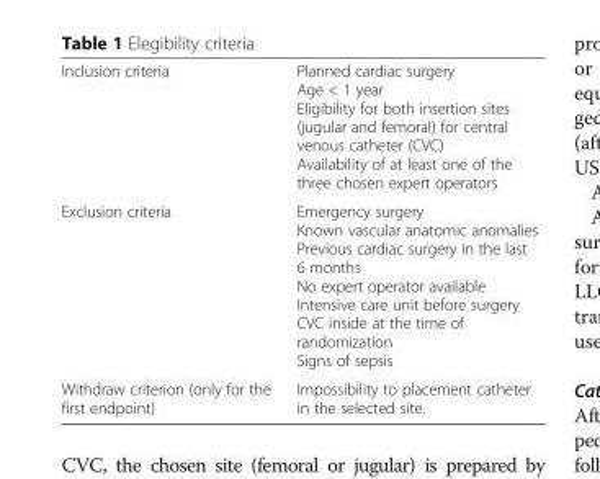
<table><tbody><tr><td>Inclusion criteria</td><td>Planned cardiac surgery Age &lt; 1 year Eligibility for both insertion sites (jugular and femoral) for central venous catheter (CVC) Availability of at least one of the three chosen expert operators</td></tr><tr><td>Exclusion criteria</td><td>Emergency surgery Known vascular anatomic anomalies Previous cardiac surgery in the last 6 months No expert operator available Intensive care unit before surgery CVC inside at the time of randomization Signs of sepsis</td></tr><tr><td>Withdraw criterion (only for the first endpoint)</td><td>Impossibility to placement catheter in the selected site.</td></tr></tbody></table>